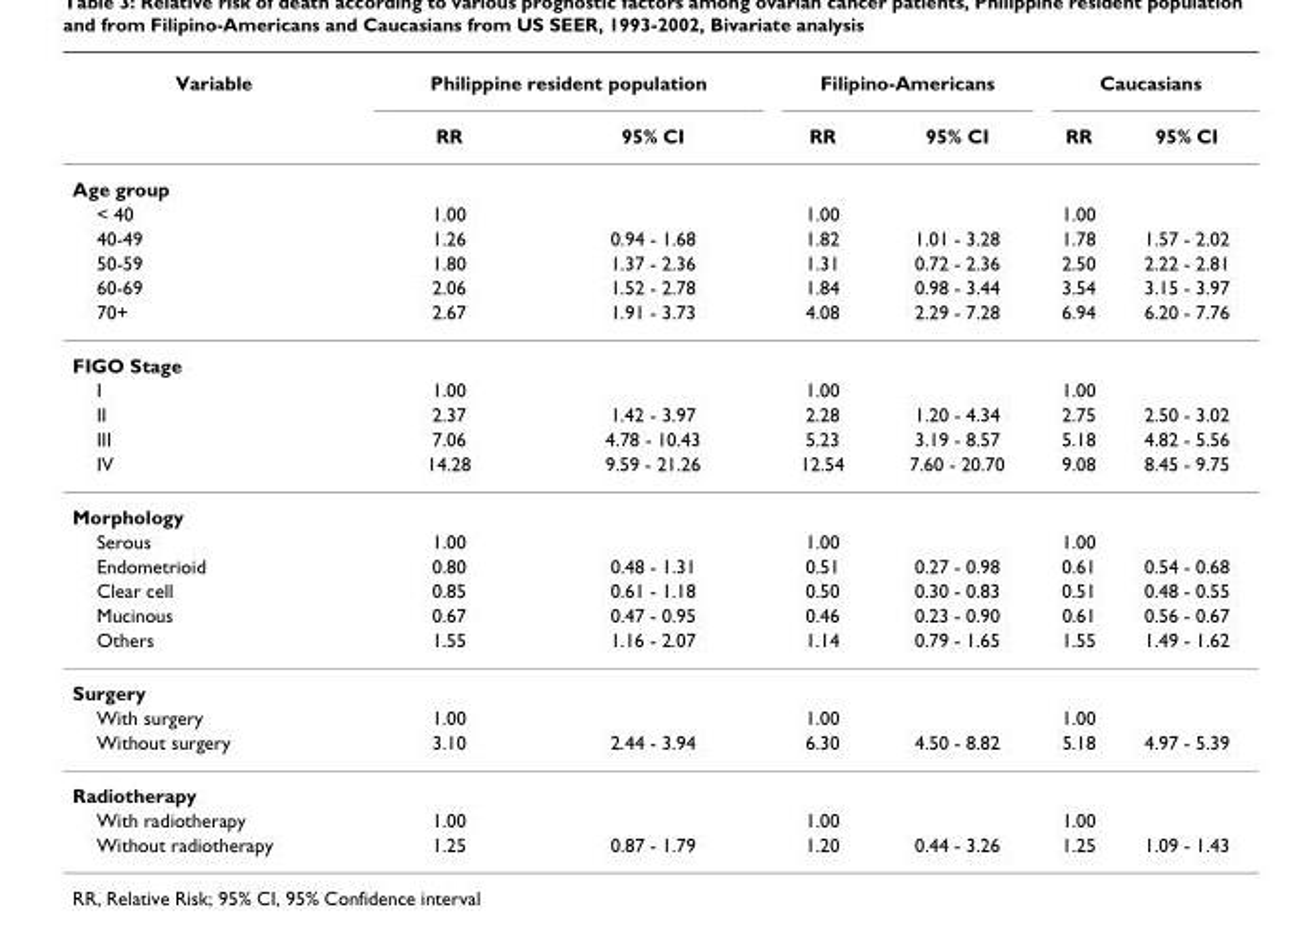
<table><tbody><tr><td rowspan="2">Variable</td><td colspan="2">Philippine resident population</td><td colspan="2">Filipino-Americans</td><td colspan="2">Caucasians</td></tr><tr><td>RR</td><td>95% CI</td><td>RR</td><td>95% CI</td><td>RR</td><td>95% CI</td></tr><tr><td colspan="7">Age group</td></tr><tr><td>&lt; 40</td><td>1.00</td><td></td><td>1.00</td><td></td><td>1.00</td><td></td></tr><tr><td>40-49</td><td>1.26</td><td>0.94 - 1.68</td><td>1.82</td><td>1.01 - 3.28</td><td>1.78</td><td>1.57 - 2.02</td></tr><tr><td>50-59</td><td>1.80</td><td>1.37 - 2.36</td><td>1.31</td><td>0.72 - 2.36</td><td>2.50</td><td>2.22 - 2.81</td></tr><tr><td>60-69</td><td>2.06</td><td>1.52 - 2.78</td><td>1.84</td><td>0.98 - 3.44</td><td>3.54</td><td>3.15 - 3.97</td></tr><tr><td>70+</td><td>2.67</td><td>1.91 - 3.73</td><td>4.08</td><td>2.29 - 7.28</td><td>6.94</td><td>6.20 - 7.76</td></tr><tr><td colspan="7">FIGO Stage</td></tr><tr><td>I</td><td>1.00</td><td></td><td>1.00</td><td></td><td>1.00</td><td></td></tr><tr><td>II</td><td>2.37</td><td>1.42 - 3.97</td><td>2.28</td><td>1.20 - 4.34</td><td>2.75</td><td>2.50 - 3.02</td></tr><tr><td>III</td><td>7.06</td><td>4.78 - 10.43</td><td>5.23</td><td>3.19 - 8.57</td><td>5.18</td><td>4.82 - 5.56</td></tr><tr><td>IV</td><td>14.28</td><td>9.59 - 21.26</td><td>12.54</td><td>7.60 - 20.70</td><td>9.08</td><td>8.45 - 9.75</td></tr><tr><td colspan="7">Morphology</td></tr><tr><td>Serous</td><td>1.00</td><td></td><td>1.00</td><td></td><td>1.00</td><td></td></tr><tr><td>Endometrioid</td><td>0.80</td><td>0.48 - 1.31</td><td>0.51</td><td>0.27 - 0.98</td><td>0.61</td><td>0.54 - 0.68</td></tr><tr><td>Clear cell</td><td>0.85</td><td>0.61 - 1.18</td><td>0.50</td><td>0.30 - 0.83</td><td>0.51</td><td>0.48 - 0.55</td></tr><tr><td>Mucinous</td><td>0.67</td><td>0.47 - 0.95</td><td>0.46</td><td>0.23 - 0.90</td><td>0.61</td><td>0.56 - 0.67</td></tr><tr><td>Others</td><td>1.55</td><td>1.16 - 2.07</td><td>1.14</td><td>0.79 - 1.65</td><td>1.55</td><td>1.49 - 1.62</td></tr><tr><td colspan="7">Surgery</td></tr><tr><td>With surgery</td><td>1.00</td><td></td><td>1.00</td><td></td><td>1.00</td><td></td></tr><tr><td>Without surgery</td><td>3.10</td><td>2.44 - 3.94</td><td>6.30</td><td>4.50 - 8.82</td><td>5.18</td><td>4.97 - 5.39</td></tr><tr><td colspan="7">Radiotherapy</td></tr><tr><td>With radiotherapy</td><td>1.00</td><td></td><td>1.00</td><td></td><td>1.00</td><td></td></tr><tr><td>Without radiotherapy</td><td>1.25</td><td>0.87 - 1.79</td><td>1.20</td><td>0.44 - 3.26</td><td>1.25</td><td>1.09 - 1.43</td></tr></tbody></table>